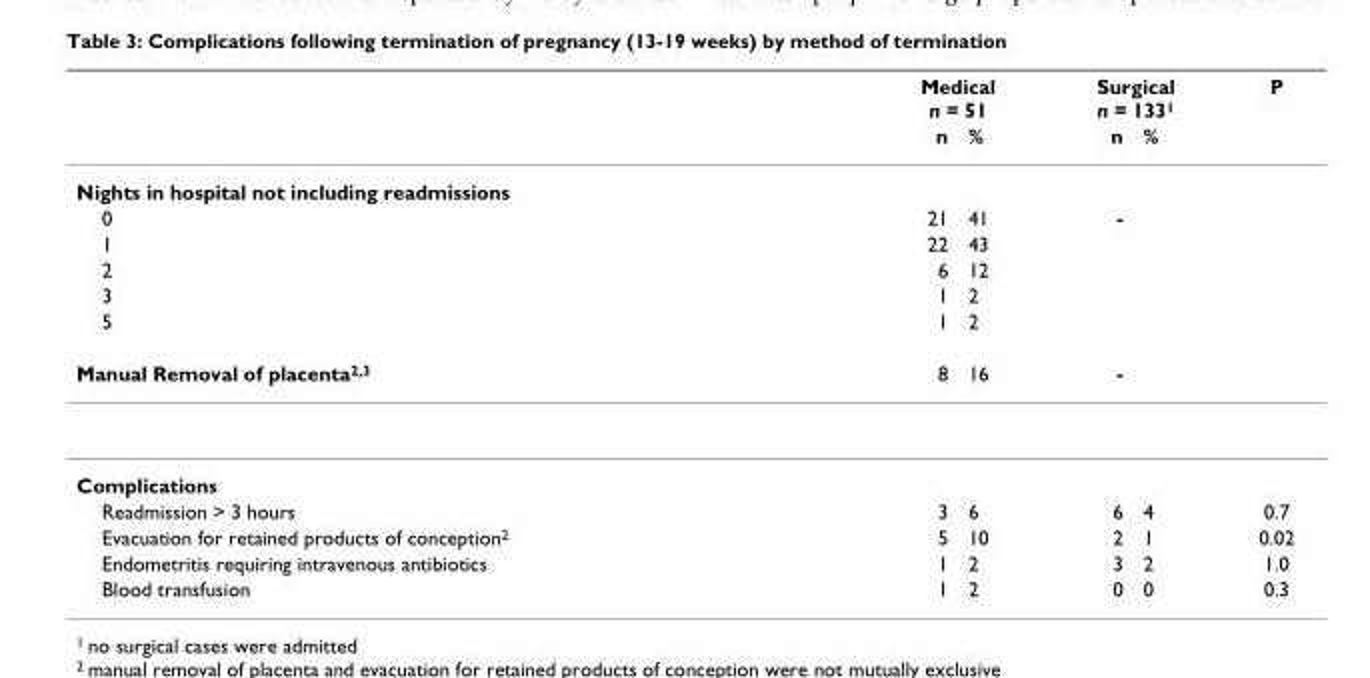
<table><thead><tr><td rowspan="2"></td><td colspan="2">Medical n = 51</td><td colspan="2">Surgical n = 1331</td><td rowspan="2">P</td></tr><tr><td>n</td><td>%</td><td>n</td><td>%</td></tr></thead><tbody><tr><td colspan="6">Nights in hospital not including readmissions</td></tr><tr><td>0</td><td>21</td><td>41</td><td>-</td><td></td><td></td></tr><tr><td>1</td><td>22</td><td>43</td><td></td><td></td><td></td></tr><tr><td>2</td><td>6</td><td>12</td><td></td><td></td><td></td></tr><tr><td>3</td><td>1</td><td>2</td><td></td><td></td><td></td></tr><tr><td>5</td><td>1</td><td>2</td><td></td><td></td><td></td></tr><tr><td>Manual Removal of placenta2,3</td><td>8</td><td>16</td><td>-</td><td></td><td></td></tr><tr><td colspan="6">Complications</td></tr><tr><td>Readmission &gt; 3 hours</td><td>3</td><td>6</td><td>6</td><td>4</td><td>0.7</td></tr><tr><td>Evacuation for retained products of conception2</td><td>5</td><td>10</td><td>2</td><td>1</td><td>0.02</td></tr><tr><td>Endometritis requiring intravenous antibiotics</td><td>1</td><td>2</td><td>3</td><td>2</td><td>1.0</td></tr><tr><td>Blood transfusion</td><td>1</td><td>2</td><td>0</td><td>0</td><td>0.3</td></tr></tbody></table>